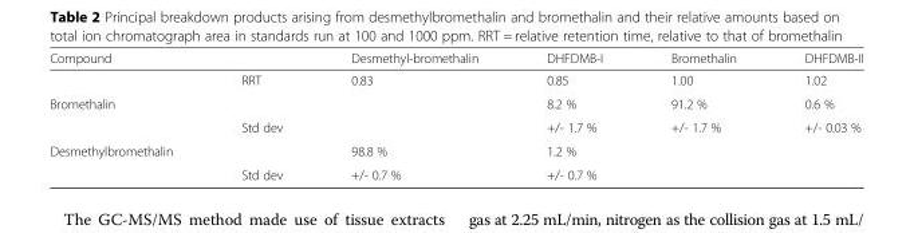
<table><thead><tr><td>Compound</td><td></td><td>Desmethyl-bromethalin</td><td>DHFDMB-I</td><td>Bromethalin</td><td>DHFDMB-II</td></tr></thead><tbody><tr><td></td><td>RRT</td><td>0.83</td><td>0.85</td><td>1.00</td><td>1.02</td></tr><tr><td rowspan="2">Bromethalin</td><td></td><td></td><td>8.2 %</td><td>91.2 %</td><td>0.6 %</td></tr><tr><td>Std dev</td><td></td><td>+/- 1.7 %</td><td>+/- 1.7 %</td><td>+/- 0.03 %</td></tr><tr><td rowspan="2">Desmethylbromethalin</td><td></td><td>98.8 %</td><td>1.2 %</td><td></td><td></td></tr><tr><td>Std dev</td><td>+/- 0.7 %</td><td>+/- 0.7 %</td><td></td><td></td></tr></tbody></table>